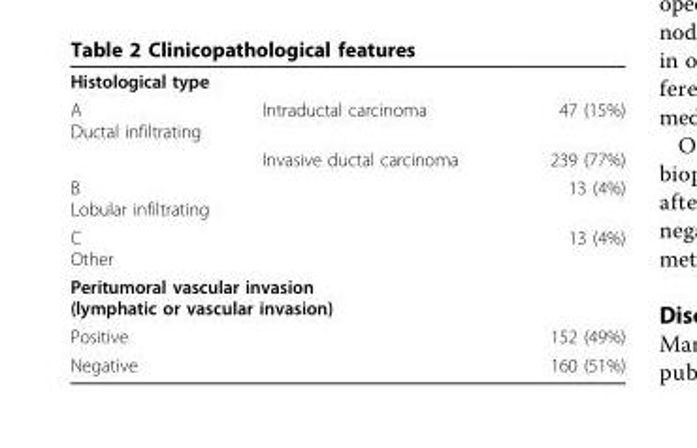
<table><tbody><tr><td colspan="3">Histological type</td></tr><tr><td rowspan="2">A Ductal infiltrating</td><td>Intraductal carcinoma</td><td>47 (15%)</td></tr><tr><td>Invasive ductal carcinoma</td><td>239 (77%)</td></tr><tr><td>B Lobular infiltrating</td><td></td><td>13 (4%)</td></tr><tr><td>C Other</td><td></td><td>13 (4%)</td></tr><tr><td colspan="3">Peritumoral vascular invasion (lymphatic or vascular invasion)</td></tr><tr><td colspan="2">Positive</td><td>152 (49%)</td></tr><tr><td colspan="2">Negative</td><td>160 (51%)</td></tr></tbody></table>